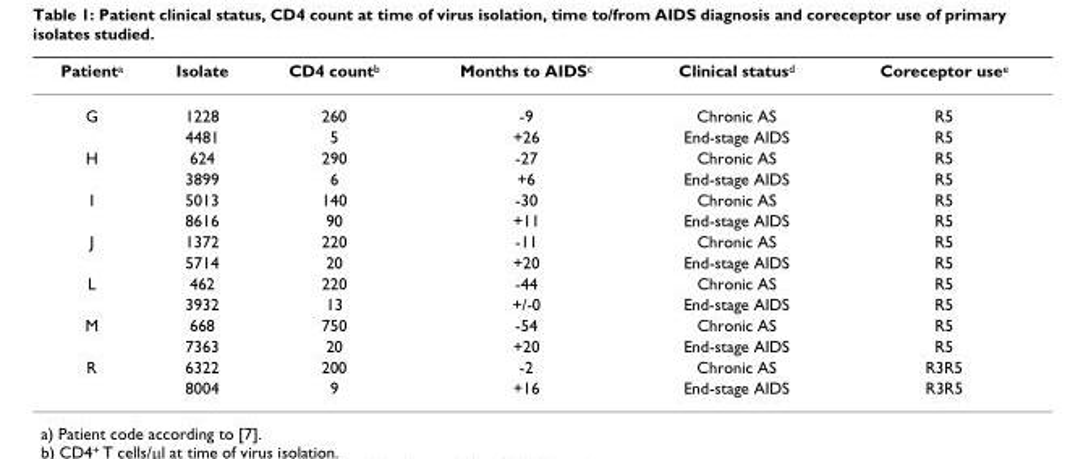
<table><thead><tr><td>Patient<sup>a</sup></td><td>Isolate</td><td>CD4 count<sup>b</sup></td><td>Months to AIDS<sup>c</sup></td><td>Clinical status<sup>d</sup></td><td>Coreceptor use<sup>e</sup></td></tr></thead><tbody><tr><td rowspan="2">G</td><td>1228</td><td>260</td><td>-9</td><td>Chronic AS</td><td>R5</td></tr><tr><td>4481</td><td>5</td><td>+26</td><td>End-stage AIDS</td><td>R5</td></tr><tr><td rowspan="2">H</td><td>624</td><td>290</td><td>-27</td><td>Chronic AS</td><td>R5</td></tr><tr><td>3899</td><td>6</td><td>+6</td><td>End-stage AIDS</td><td>R5</td></tr><tr><td rowspan="2">I</td><td>5013</td><td>140</td><td>-30</td><td>Chronic AS</td><td>R5</td></tr><tr><td>8616</td><td>90</td><td>+11</td><td>End-stage AIDS</td><td>R5</td></tr><tr><td rowspan="2">J</td><td>1372</td><td>220</td><td>-11</td><td>Chronic AS</td><td>R5</td></tr><tr><td>5714</td><td>20</td><td>+20</td><td>End-stage AIDS</td><td>R5</td></tr><tr><td rowspan="2">L</td><td>462</td><td>220</td><td>-44</td><td>Chronic AS</td><td>R5</td></tr><tr><td>3932</td><td>13</td><td>+/-0</td><td>End-stage AIDS</td><td>R5</td></tr><tr><td rowspan="2">M</td><td>668</td><td>750</td><td>-54</td><td>Chronic AS</td><td>R5</td></tr><tr><td>7363</td><td>20</td><td>+20</td><td>End-stage AIDS</td><td>R5</td></tr><tr><td rowspan="2">R</td><td>6322</td><td>200</td><td>-2</td><td>Chronic AS</td><td>R3R5</td></tr><tr><td>8004</td><td>9</td><td>+16</td><td>End-stage AIDS</td><td>R3R5</td></tr></tbody></table>